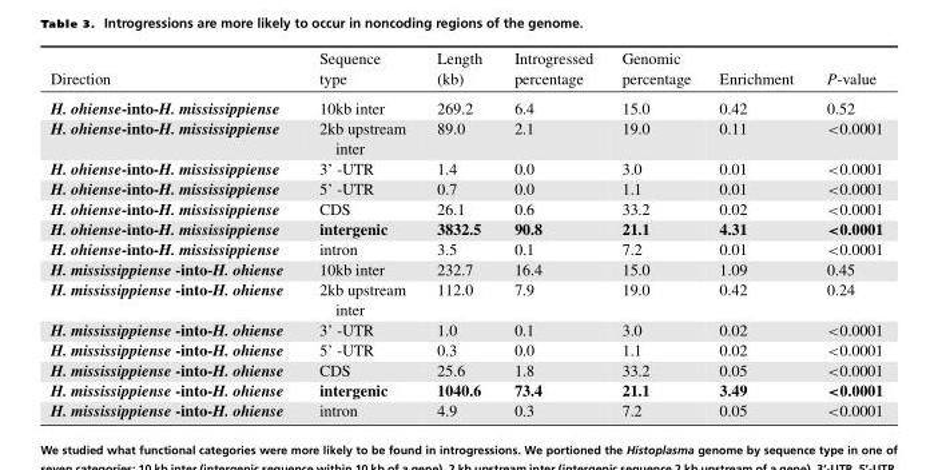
<table><thead><tr><td>Direction</td><td>Sequence type</td><td>Length (kb)</td><td>Introgressed percentage</td><td>Genomic percentage</td><td>Enrichment</td><td>P-value</td></tr></thead><tbody><tr><td>H. ohiense-into-H. mississippiense</td><td>10kb inter</td><td>269.2</td><td>6.4</td><td>15.0</td><td>0.42</td><td>0.52</td></tr><tr><td>H. ohiense-into-H. mississippiense</td><td>2kb upstream inter</td><td>89.0</td><td>2.1</td><td>19.0</td><td>0.11</td><td>&lt;0.0001</td></tr><tr><td>H. ohiense-into-H. mississippiense</td><td>3’ -UTR</td><td>1.4</td><td>0.0</td><td>3.0</td><td>0.01</td><td>&lt;0.0001</td></tr><tr><td>H. ohiense-into-H. mississippiense</td><td>5’ -UTR</td><td>0.7</td><td>0.0</td><td>1.1</td><td>0.01</td><td>&lt;0.0001</td></tr><tr><td>H. ohiense-into-H. mississippiense</td><td>CDS</td><td>26.1</td><td>0.6</td><td>33.2</td><td>0.02</td><td>&lt;0.0001</td></tr><tr><td>H. ohiense-into-H. mississippiense</td><td>intergenic</td><td>3832.5</td><td>90.8</td><td>21.1</td><td>4.31</td><td>&lt;0.0001</td></tr><tr><td>H. ohiense-into-H. mississippiense</td><td>intron</td><td>3.5</td><td>0.1</td><td>7.2</td><td>0.01</td><td>&lt;0.0001</td></tr><tr><td>H. mississippiense -into-H. ohiense</td><td>10kb inter</td><td>232.7</td><td>16.4</td><td>15.0</td><td>1.09</td><td>0.45</td></tr><tr><td>H. mississippiense -into-H. ohiense</td><td>2kb upstream inter</td><td>112.0</td><td>7.9</td><td>19.0</td><td>0.42</td><td>0.24</td></tr><tr><td>H. mississippiense -into-H. ohiense</td><td>3’ -UTR</td><td>1.0</td><td>0.1</td><td>3.0</td><td>0.02</td><td>&lt;0.0001</td></tr><tr><td>H. mississippiense -into-H. ohiense</td><td>5’ -UTR</td><td>0.3</td><td>0.0</td><td>1.1</td><td>0.02</td><td>&lt;0.0001</td></tr><tr><td>H. mississippiense -into-H. ohiense</td><td>CDS</td><td>25.6</td><td>1.8</td><td>33.2</td><td>0.05</td><td>&lt;0.0001</td></tr><tr><td>H. mississippiense -into-H. ohiense</td><td>intergenic</td><td>1040.6</td><td>73.4</td><td>21.1</td><td>3.49</td><td>&lt;0.0001</td></tr><tr><td>H. mississippiense -into-H. ohiense</td><td>intron</td><td>4.9</td><td>0.3</td><td>7.2</td><td>0.05</td><td>&lt;0.0001</td></tr></tbody></table>